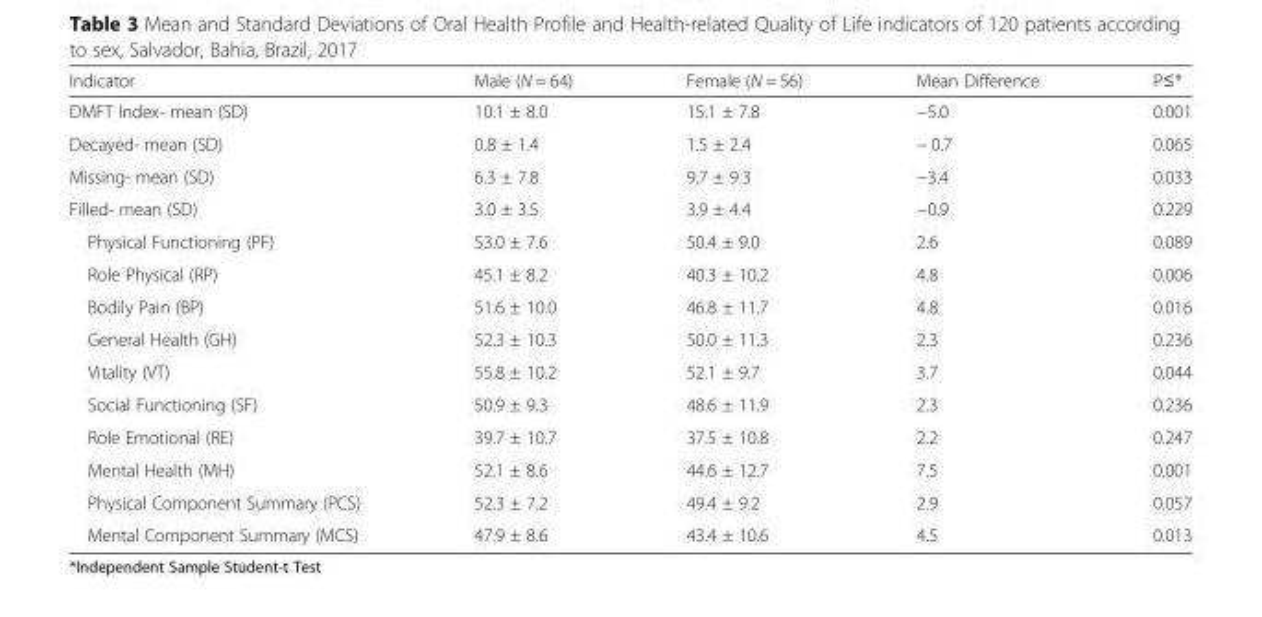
<table><thead><tr><td>Indicator</td><td>Male (N = 64)</td><td>Female (N = 56)</td><td>Mean Difference</td><td>P≤*</td></tr></thead><tbody><tr><td>DMFT Index- mean (SD)</td><td>10.1 ± 8.0</td><td>15.1 ± 7.8</td><td>−5.0</td><td>0.001</td></tr><tr><td>Decayed- mean (SD)</td><td>0.8 ± 1.4</td><td>1.5 ± 2.4</td><td>− 0.7</td><td>0.065</td></tr><tr><td>Missing- mean (SD)</td><td>6.3 ± 7.8</td><td>9.7 ± 9.3</td><td>−3.4</td><td>0.033</td></tr><tr><td>Filled- mean (SD)</td><td>3.0 ± 3.5</td><td>3.9 ± 4.4</td><td>−0.9</td><td>0.229</td></tr><tr><td>Physical Functioning (PF)</td><td>53.0 ± 7.6</td><td>50.4 ± 9.0</td><td>2.6</td><td>0.089</td></tr><tr><td>Role Physical (RP)</td><td>45.1 ± 8.2</td><td>40.3 ± 10.2</td><td>4.8</td><td>0.006</td></tr><tr><td>Bodily Pain (BP)</td><td>51.6 ± 10.0</td><td>46.8 ± 11.7</td><td>4.8</td><td>0.016</td></tr><tr><td>General Health (GH)</td><td>52.3 ± 10.3</td><td>50.0 ± 11.3</td><td>2.3</td><td>0.236</td></tr><tr><td>Vitality (VT)</td><td>55.8 ± 10.2</td><td>52.1 ± 9.7</td><td>3.7</td><td>0.044</td></tr><tr><td>Social Functioning (SF)</td><td>50.9 ± 9.3</td><td>48.6 ± 11.9</td><td>2.3</td><td>0.236</td></tr><tr><td>Role Emotional (RE)</td><td>39.7 ± 10.7</td><td>37.5 ± 10.8</td><td>2.2</td><td>0.247</td></tr><tr><td>Mental Health (MH)</td><td>52.1 ± 8.6</td><td>44.6 ± 12.7</td><td>7.5</td><td>0.001</td></tr><tr><td>Physical Component Summary (PCS)</td><td>52.3 ± 7.2</td><td>49.4 ± 9.2</td><td>2.9</td><td>0.057</td></tr><tr><td>Mental Component Summary (MCS)</td><td>47.9 ± 8.6</td><td>43.4 ± 10.6</td><td>4.5</td><td>0.013</td></tr></tbody></table>